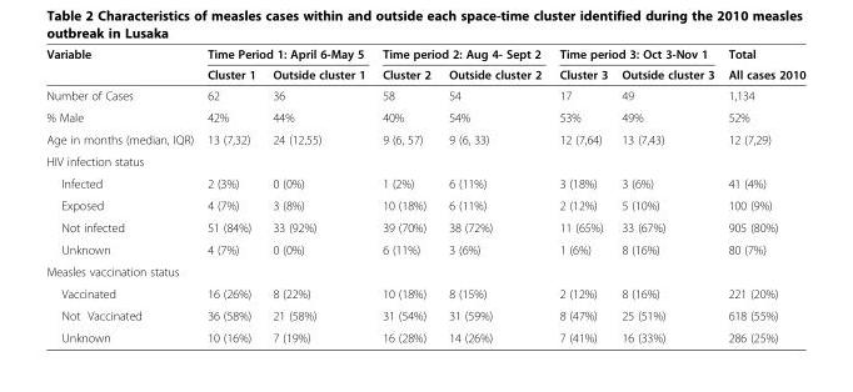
<table><thead><tr><td rowspan="2">Variable</td><td colspan="2">Time Period 1: April 6-May 5</td><td colspan="2">Time period 2: Aug 4- Sept 2</td><td colspan="2">Time period 3: Oct 3-Nov 1</td><td rowspan="2">Total All cases 2010</td></tr><tr><td>Cluster 1</td><td>Outside cluster 1</td><td>Cluster 2</td><td>Outside cluster 2</td><td>Cluster 3</td><td>Outside cluster 3</td></tr></thead><tbody><tr><td>Number of Cases</td><td>62</td><td>36</td><td>58</td><td>54</td><td>17</td><td>49</td><td>1,134</td></tr><tr><td>% Male</td><td>42%</td><td>44%</td><td>40%</td><td>54%</td><td>53%</td><td>49%</td><td>52%</td></tr><tr><td>Age in months (median, IQR)</td><td>13 (7,32)</td><td>24 (12,55)</td><td>9 (6, 57)</td><td>9 (6, 33)</td><td>12 (7,64)</td><td>13 (7,43)</td><td>12 (7,29)</td></tr><tr><td colspan="8">HIV infection status</td></tr><tr><td>Infected</td><td>2 (3%)</td><td>0 (0%)</td><td>1 (2%)</td><td>6 (11%)</td><td>3 (18%)</td><td>3 (6%)</td><td>41 (4%)</td></tr><tr><td>Exposed</td><td>4 (7%)</td><td>3 (8%)</td><td>10 (18%)</td><td>6 (11%)</td><td>2 (12%)</td><td>5 (10%)</td><td>100 (9%)</td></tr><tr><td>Not infected</td><td>51 (84%)</td><td>33 (92%)</td><td>39 (70%)</td><td>38 (72%)</td><td>11 (65%)</td><td>33 (67%)</td><td>905 (80%)</td></tr><tr><td>Unknown</td><td>4 (7%)</td><td>0 (0%)</td><td>6 (11%)</td><td>3 (6%)</td><td>1 (6%)</td><td>8 (16%)</td><td>80 (7%)</td></tr><tr><td colspan="8">Measles vaccination status</td></tr><tr><td>Vaccinated</td><td>16 (26%)</td><td>8 (22%)</td><td>10 (18%)</td><td>8 (15%)</td><td>2 (12%)</td><td>8 (16%)</td><td>221 (20%)</td></tr><tr><td>Not Vaccinated</td><td>36 (58%)</td><td>21 (58%)</td><td>31 (54%)</td><td>31 (59%)</td><td>8 (47%)</td><td>25 (51%)</td><td>618 (55%)</td></tr><tr><td>Unknown</td><td>10 (16%)</td><td>7 (19%)</td><td>16 (28%)</td><td>14 (26%)</td><td>7 (41%)</td><td>16 (33%)</td><td>286 (25%)</td></tr></tbody></table>